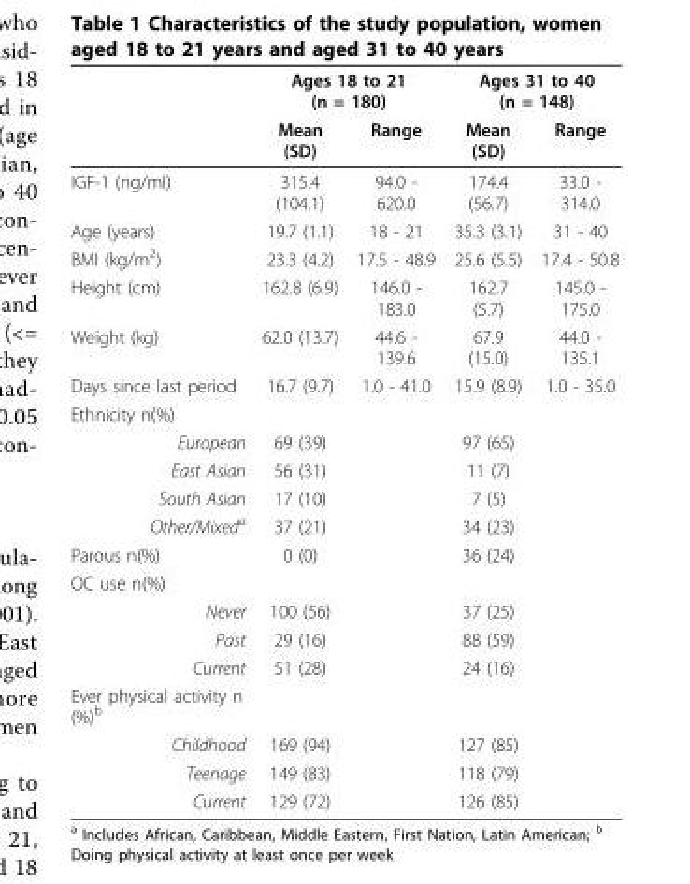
<table><thead><tr><td rowspan="2"></td><td colspan="2">Ages 18 to 21 (n = 180)</td><td colspan="2">Ages 31 to 40 (n = 148)</td></tr><tr><td>Mean (SD)</td><td>Range</td><td>Mean (SD)</td><td>Range</td></tr></thead><tbody><tr><td>IGF-1 (ng/ml)</td><td>315.4 (104.1)</td><td>94.0 - 620.0</td><td>174.4 (56.7)</td><td>33.0 - 314.0</td></tr><tr><td>Age (years)</td><td>19.7 (1.1)</td><td>18 - 21</td><td>35.3 (3.1)</td><td>31 - 40</td></tr><tr><td>BMI (kg/m<sup>2</sup>)</td><td>23.3 (4.2)</td><td>17.5 - 48.9</td><td>25.6 (5.5)</td><td>17.4 - 50.8</td></tr><tr><td>Height (cm)</td><td>162.8 (6.9)</td><td>146.0 - 183.0</td><td>162.7 (5.7)</td><td>145.0 - 175.0</td></tr><tr><td>Weight (kg)</td><td>62.0 (13.7)</td><td>44.6 - 139.6</td><td>67.9 (15.0)</td><td>44.0 - 135.1</td></tr><tr><td>Days since last period</td><td>16.7 (9.7)</td><td>1.0 - 41.0</td><td>15.9 (8.9)</td><td>1.0 - 35.0</td></tr><tr><td colspan="5">Ethnicity n(%)</td></tr><tr><td>European</td><td>69 (39)</td><td></td><td>97 (65)</td><td></td></tr><tr><td>East Asian</td><td>56 (31)</td><td></td><td>11 (7)</td><td></td></tr><tr><td>South Asian</td><td>17 (10)</td><td></td><td>7 (5)</td><td></td></tr><tr><td>Other/Mixed<sup>a</sup></td><td>37 (21)</td><td></td><td>34 (23)</td><td></td></tr><tr><td>Parous n(%)</td><td>0 (0)</td><td></td><td>36 (24)</td><td></td></tr><tr><td colspan="5">OC use n(%)</td></tr><tr><td>Never</td><td>100 (56)</td><td></td><td>37 (25)</td><td></td></tr><tr><td>Past</td><td>29 (16)</td><td></td><td>88 (59)</td><td></td></tr><tr><td>Current</td><td>51 (28)</td><td></td><td>24 (16)</td><td></td></tr><tr><td colspan="5">Ever physical activity n (%)<sup>b</sup></td></tr><tr><td>Childhood</td><td>169 (94)</td><td></td><td>127 (85)</td><td></td></tr><tr><td>Teenage</td><td>149 (83)</td><td></td><td>118 (79)</td><td></td></tr><tr><td>Current</td><td>129 (72)</td><td></td><td>126 (85)</td><td></td></tr></tbody></table>